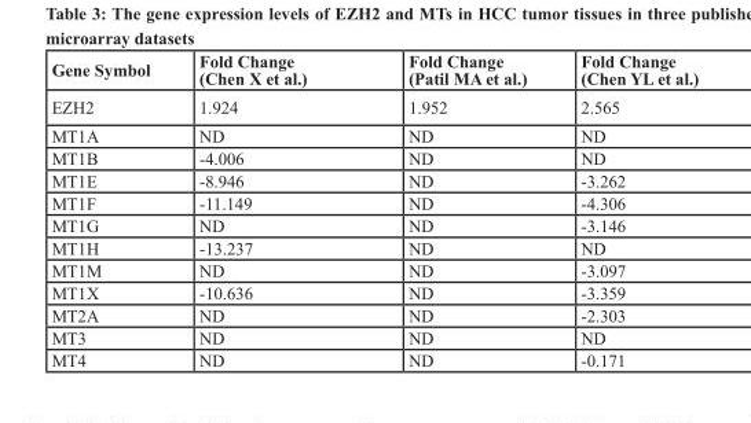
<table><thead><tr><td>Gene Symbol</td><td>Fold Change (Chen X et al.)</td><td>Fold Change (Patil MA et al.)</td><td>Fold Change (Chen YL et al.)</td></tr></thead><tbody><tr><td>EZH2</td><td>1.924</td><td>1.952</td><td>2.565</td></tr><tr><td>MT1A</td><td>ND</td><td>ND</td><td>ND</td></tr><tr><td>MT1B</td><td>-4.006</td><td>ND</td><td>ND</td></tr><tr><td>MT1E</td><td>-8.946</td><td>ND</td><td>-3.262</td></tr><tr><td>MT1F</td><td>-11.149</td><td>ND</td><td>-4.306</td></tr><tr><td>MT1G</td><td>ND</td><td>ND</td><td>-3.146</td></tr><tr><td>MT1H</td><td>-13.237</td><td>ND</td><td>ND</td></tr><tr><td>MT1M</td><td>ND</td><td>ND</td><td>-3.097</td></tr><tr><td>MT1X</td><td>-10.636</td><td>ND</td><td>-3.359</td></tr><tr><td>MT2A</td><td>ND</td><td>ND</td><td>-2.303</td></tr><tr><td>MT3</td><td>ND</td><td>ND</td><td>ND</td></tr><tr><td>MT4</td><td>ND</td><td>ND</td><td>-0.171</td></tr></tbody></table>